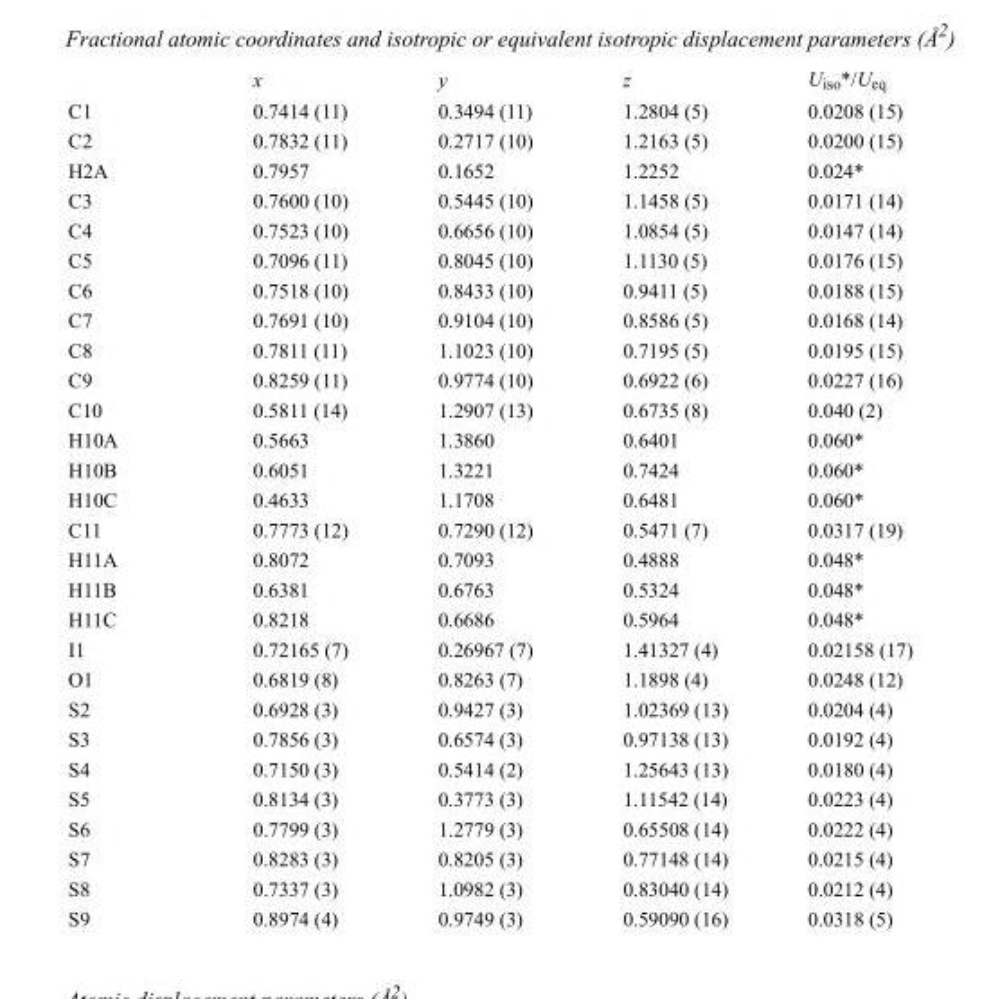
<table><thead><tr><td></td><td>x</td><td>y</td><td>z</td><td>U<sub>iso</sub>*/U<sub>eq</sub></td></tr></thead><tbody><tr><td>C1</td><td>0.7414 (11)</td><td>0.3494 (11)</td><td>1.2804 (5)</td><td>0.0208 (15)</td></tr><tr><td>C2</td><td>0.7832 (11)</td><td>0.2717 (10)</td><td>1.2163 (5)</td><td>0.0200 (15)</td></tr><tr><td>H2A</td><td>0.7957</td><td>0.1652</td><td>1.2252</td><td>0.024*</td></tr><tr><td>C3</td><td>0.7600 (10)</td><td>0.5445 (10)</td><td>1.1458 (5)</td><td>0.0171 (14)</td></tr><tr><td>C4</td><td>0.7523 (10)</td><td>0.6656 (10)</td><td>1.0854 (5)</td><td>0.0147 (14)</td></tr><tr><td>C5</td><td>0.7096 (11)</td><td>0.8045 (10)</td><td>1.1130 (5)</td><td>0.0176 (15)</td></tr><tr><td>C6</td><td>0.7518 (10)</td><td>0.8433 (10)</td><td>0.9411 (5)</td><td>0.0188 (15)</td></tr><tr><td>C7</td><td>0.7691 (10)</td><td>0.9104 (10)</td><td>0.8586 (5)</td><td>0.0168 (14)</td></tr><tr><td>C8</td><td>0.7811 (11)</td><td>1.1023 (10)</td><td>0.7195 (5)</td><td>0.0195 (15)</td></tr><tr><td>C9</td><td>0.8259 (11)</td><td>0.9774 (10)</td><td>0.6922 (6)</td><td>0.0227 (16)</td></tr><tr><td>C10</td><td>0.5811 (14)</td><td>1.2907 (13)</td><td>0.6735 (8)</td><td>0.040 (2)</td></tr><tr><td>H10A</td><td>0.5663</td><td>1.3860</td><td>0.6401</td><td>0.060*</td></tr><tr><td>H10B</td><td>0.6051</td><td>1.3221</td><td>0.7424</td><td>0.060*</td></tr><tr><td>H10C</td><td>0.4633</td><td>1.1708</td><td>0.6481</td><td>0.060*</td></tr><tr><td>C11</td><td>0.7773 (12)</td><td>0.7290 (12)</td><td>0.5471 (7)</td><td>0.0317 (19)</td></tr><tr><td>H11A</td><td>0.8072</td><td>0.7093</td><td>0.4888</td><td>0.048*</td></tr><tr><td>H11B</td><td>0.6381</td><td>0.6763</td><td>0.5324</td><td>0.048*</td></tr><tr><td>H11C</td><td>0.8218</td><td>0.6686</td><td>0.5964</td><td>0.048*</td></tr><tr><td>I1</td><td>0.72165 (7)</td><td>0.26967 (7)</td><td>1.41327 (4)</td><td>0.02158 (17)</td></tr><tr><td>O1</td><td>0.6819 (8)</td><td>0.8263 (7)</td><td>1.1898 (4)</td><td>0.0248 (12)</td></tr><tr><td>S2</td><td>0.6928 (3)</td><td>0.9427 (3)</td><td>1.02369 (13)</td><td>0.0204 (4)</td></tr><tr><td>S3</td><td>0.7856 (3)</td><td>0.6574 (3)</td><td>0.97138 (13)</td><td>0.0192 (4)</td></tr><tr><td>S4</td><td>0.7150 (3)</td><td>0.5414 (2)</td><td>1.25643 (13)</td><td>0.0180 (4)</td></tr><tr><td>S5</td><td>0.8134 (3)</td><td>0.3773 (3)</td><td>1.11542 (14)</td><td>0.0223 (4)</td></tr><tr><td>S6</td><td>0.7799 (3)</td><td>1.2779 (3)</td><td>0.65508 (14)</td><td>0.0222 (4)</td></tr><tr><td>S7</td><td>0.8283 (3)</td><td>0.8205 (3)</td><td>0.77148 (14)</td><td>0.0215 (4)</td></tr><tr><td>S8</td><td>0.7337 (3)</td><td>1.0982 (3)</td><td>0.83040 (14)</td><td>0.0212 (4)</td></tr><tr><td>S9</td><td>0.8974 (4)</td><td>0.9749 (3)</td><td>0.59090 (16)</td><td>0.0318 (5)</td></tr></tbody></table>